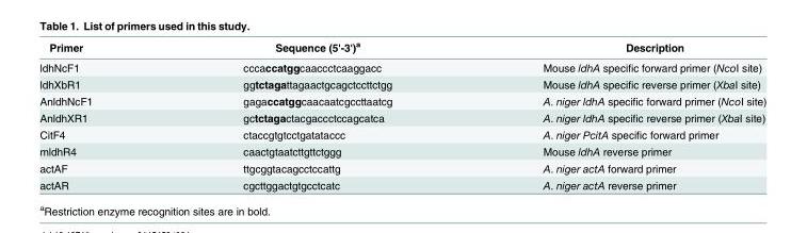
<table><thead><tr><td>Primer</td><td>Sequence (5&#x27;-3&#x27;)<sup>a</sup></td><td>Description</td></tr></thead><tbody><tr><td>ldhNcF1</td><td>cccaccatggcaaccctcaaggacc</td><td>Mouse ldhA specific forward primer (NcoI site)</td></tr><tr><td>ldhXbR1</td><td>ggtctagattagaactgcagctccttctgg</td><td>Mouse ldhA specific reverse primer (XbaI site)</td></tr><tr><td>AnldhNcF1</td><td>gagaccatggcaacaatcgccttaatcg</td><td>A. niger ldhA specific forward primer (NcoI site)</td></tr><tr><td>AnldhXR1</td><td>gctctagactacgaccctccagcatca</td><td>A. niger ldhA specific reverse primer (XbaI site)</td></tr><tr><td>CitF4</td><td>ctaccgtgtcctgatataccc</td><td>A. niger PcitA specific forward primer</td></tr><tr><td>mldhR4</td><td>caactgtaatcttgttctggg</td><td>Mouse ldhA reverse primer</td></tr><tr><td>actAF</td><td>ttgcggtacagcctccattg</td><td>A. niger actA forward primer</td></tr><tr><td>actAR</td><td>cgcttggactgtgcctcatc</td><td>A. niger actA reverse primer</td></tr></tbody></table>